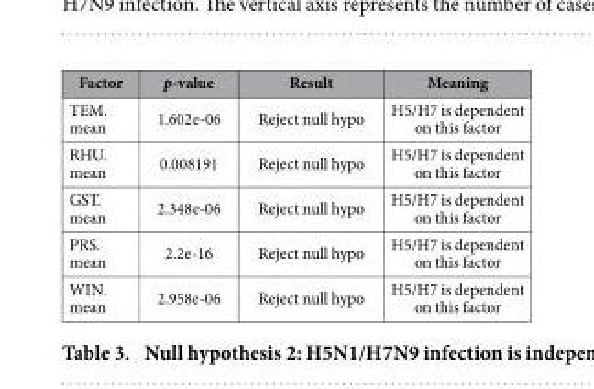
<table><thead><tr><td>Factor</td><td>p-value</td><td>Result</td><td>Meaning</td></tr></thead><tbody><tr><td>TEM. mean</td><td>1.602e-06</td><td>Reject null hypo</td><td>H5/H7 is dependent on this factor</td></tr><tr><td>RHU. mean</td><td>0.008191</td><td>Reject null hypo</td><td>H5/H7 is dependent on this factor</td></tr><tr><td>GST. mean</td><td>2.348e-06</td><td>Reject null hypo</td><td>H5/H7 is dependent on this factor</td></tr><tr><td>PRS. mean</td><td>2.2e-16</td><td>Reject null hypo</td><td>H5/H7 is dependent on this factor</td></tr><tr><td>WIN. mean</td><td>2.958e-06</td><td>Reject null hypo</td><td>H5/H7 is dependent on this factor</td></tr></tbody></table>